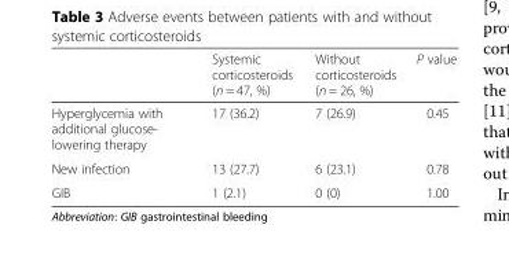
<table><thead><tr><td></td><td>Systemic corticosteroids (n = 47, %)</td><td>Without corticosteroids (n = 26, %)</td><td>P value</td></tr></thead><tbody><tr><td>Hyperglycemia with additional glucose- lowering therapy</td><td>17 (36.2)</td><td>7 (26.9)</td><td>0.45</td></tr><tr><td>New infection</td><td>13 (27.7)</td><td>6 (23.1)</td><td>0.78</td></tr><tr><td>GIB</td><td>1 (2.1)</td><td>0 (0)</td><td>1.00</td></tr></tbody></table>